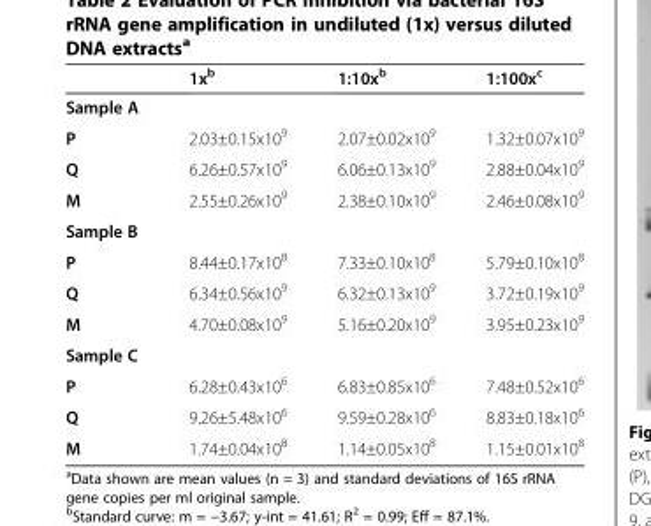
<table><thead><tr><td></td><td>1x<sup>b</sup></td><td>1:10x<sup>b</sup></td><td>1:100x<sup>c</sup></td></tr></thead><tbody><tr><td colspan="4">Sample A</td></tr><tr><td>P</td><td>2.03±0.15x10<sup>9</sup></td><td>2.07±0.02x10<sup>9</sup></td><td>1.32±0.07x10<sup>9</sup></td></tr><tr><td>Q</td><td>6.26±0.57x10<sup>9</sup></td><td>6.06±0.13x10<sup>9</sup></td><td>2.88±0.04x10<sup>9</sup></td></tr><tr><td>M</td><td>2.55±0.26x10<sup>9</sup></td><td>2.38±0.10x10<sup>9</sup></td><td>2.46±0.08x10<sup>9</sup></td></tr><tr><td colspan="4">Sample B</td></tr><tr><td>P</td><td>8.44±0.17x10<sup>8</sup></td><td>7.33±0.10x10<sup>8</sup></td><td>5.79±0.10x10<sup>8</sup></td></tr><tr><td>Q</td><td>6.34±0.56x10<sup>9</sup></td><td>6.32±0.13x10<sup>9</sup></td><td>3.72±0.19x10<sup>9</sup></td></tr><tr><td>M</td><td>4.70±0.08x10<sup>9</sup></td><td>5.16±0.20x10<sup>9</sup></td><td>3.95±0.23x10<sup>9</sup></td></tr><tr><td colspan="4">Sample C</td></tr><tr><td>P</td><td>6.28±0.43x10<sup>6</sup></td><td>6.83±0.85x10<sup>6</sup></td><td>7.48±0.52x10<sup>6</sup></td></tr><tr><td>Q</td><td>9.26±5.48x10<sup>6</sup></td><td>9.59±0.28x10<sup>6</sup></td><td>8.83±0.18x10<sup>6</sup></td></tr><tr><td>M</td><td>1.74±0.04x10<sup>8</sup></td><td>1.14±0.05x10<sup>8</sup></td><td>1.15±0.01x10<sup>8</sup></td></tr></tbody></table>